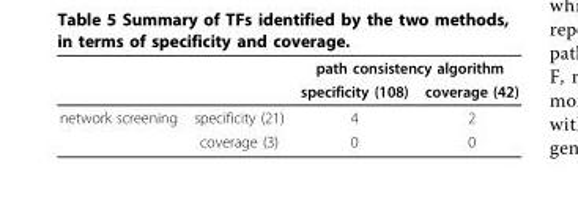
<table><thead><tr><td rowspan="2"></td><td rowspan="2"></td><td colspan="2">path consistency algorithm</td></tr><tr><td>specificity (108)</td><td>coverage (42)</td></tr></thead><tbody><tr><td rowspan="2">network screening</td><td>specificity (21)</td><td>4</td><td>2</td></tr><tr><td>coverage (3)</td><td>0</td><td>0</td></tr></tbody></table>